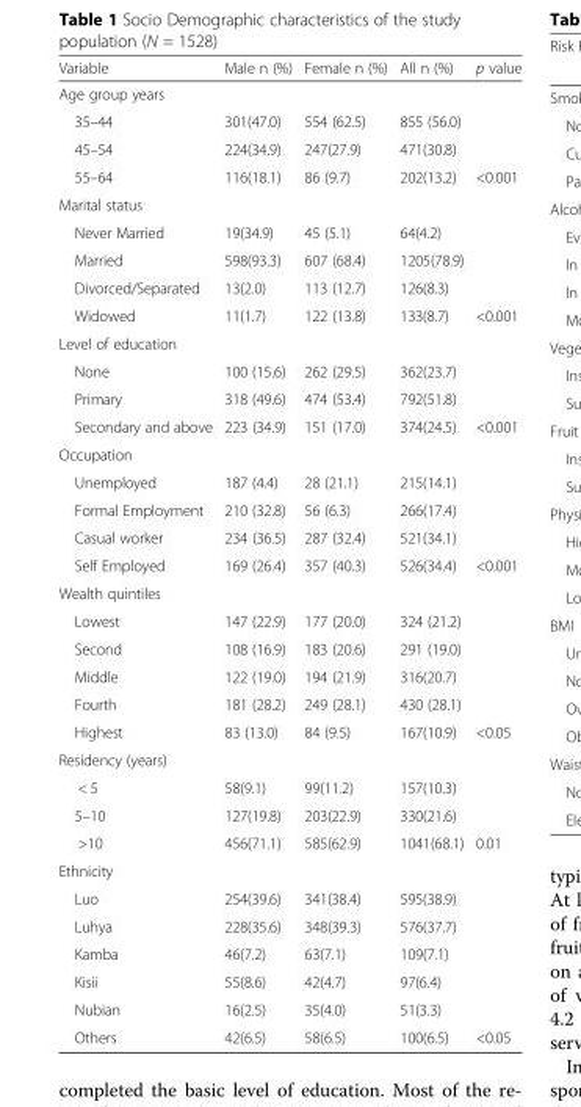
<table><thead><tr><td>Variable</td><td>Male n (%)</td><td>Female n (%)</td><td>All n (%)</td><td>p value</td></tr></thead><tbody><tr><td colspan="5">Age group years</td></tr><tr><td>35–44</td><td>301(47.0)</td><td>554 (62.5)</td><td>855 (56.0)</td><td></td></tr><tr><td>45–54</td><td>224(34.9)</td><td>247(27.9)</td><td>471(30.8)</td><td></td></tr><tr><td>55–64</td><td>116(18.1)</td><td>86 (9.7)</td><td>202(13.2)</td><td>&lt;0.001</td></tr><tr><td colspan="5">Marital status</td></tr><tr><td>Never Married</td><td>19(34.9)</td><td>45 (5.1)</td><td>64(4.2)</td><td></td></tr><tr><td>Married</td><td>598(93.3)</td><td>607 (68.4)</td><td>1205(78.9)</td><td></td></tr><tr><td>Divorced/Separated</td><td>13(2.0)</td><td>113 (12.7)</td><td>126(8.3)</td><td></td></tr><tr><td>Widowed</td><td>11(1.7)</td><td>122 (13.8)</td><td>133(8.7)</td><td>&lt;0.001</td></tr><tr><td colspan="5">Level of education</td></tr><tr><td>None</td><td>100 (15.6)</td><td>262 (29.5)</td><td>362(23.7)</td><td></td></tr><tr><td>Primary</td><td>318 (49.6)</td><td>474 (53.4)</td><td>792(51.8)</td><td></td></tr><tr><td>Secondary and above</td><td>223 (34.9)</td><td>151 (17.0)</td><td>374(24.5)</td><td>&lt;0.001</td></tr><tr><td colspan="5">Occupation</td></tr><tr><td>Unemployed</td><td>187 (4.4)</td><td>28 (21.1)</td><td>215(14.1)</td><td></td></tr><tr><td>Formal Employment</td><td>210 (32.8)</td><td>56 (6.3)</td><td>266(17.4)</td><td></td></tr><tr><td>Casual worker</td><td>234 (36.5)</td><td>287 (32.4)</td><td>521(34.1)</td><td></td></tr><tr><td>Self Employed</td><td>169 (26.4)</td><td>357 (40.3)</td><td>526(34.4)</td><td>&lt;0.001</td></tr><tr><td colspan="5">Wealth quintiles</td></tr><tr><td>Lowest</td><td>147 (22.9)</td><td>177 (20.0)</td><td>324 (21.2)</td><td></td></tr><tr><td>Second</td><td>108 (16.9)</td><td>183 (20.6)</td><td>291 (19.0)</td><td></td></tr><tr><td>Middle</td><td>122 (19.0)</td><td>194 (21.9)</td><td>316(20.7)</td><td></td></tr><tr><td>Fourth</td><td>181 (28.2)</td><td>249 (28.1)</td><td>430 (28.1)</td><td></td></tr><tr><td>Highest</td><td>83 (13.0)</td><td>84 (9.5)</td><td>167(10.9)</td><td>&lt;0.05</td></tr><tr><td colspan="5">Residency (years)</td></tr><tr><td>&lt; 5</td><td>58(9.1)</td><td>99(11.2)</td><td>157(10.3)</td><td></td></tr><tr><td>5–10</td><td>127(19.8)</td><td>203(22.9)</td><td>330(21.6)</td><td></td></tr><tr><td>&gt;10</td><td>456(71.1)</td><td>585(62.9)</td><td>1041(68.1)</td><td>0.01</td></tr><tr><td colspan="5">Ethnicity</td></tr><tr><td>Luo</td><td>254(39.6)</td><td>341(38.4)</td><td>595(38.9)</td><td></td></tr><tr><td>Luhya</td><td>228(35.6)</td><td>348(39.3)</td><td>576(37.7)</td><td></td></tr><tr><td>Kamba</td><td>46(7.2)</td><td>63(7.1)</td><td>109(7.1)</td><td></td></tr><tr><td>Kisii</td><td>55(8.6)</td><td>42(4.7)</td><td>97(6.4)</td><td></td></tr><tr><td>Nubian</td><td>16(2.5)</td><td>35(4.0)</td><td>51(3.3)</td><td></td></tr><tr><td>Others</td><td>42(6.5)</td><td>58(6.5)</td><td>100(6.5)</td><td>&lt;0.05</td></tr></tbody></table>